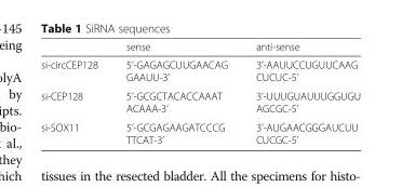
<table><thead><tr><td></td><td>sense</td><td>anti-sense</td></tr></thead><tbody><tr><td>si-circCEP128</td><td>5’-GAGAGCUUGAACAG GAAUU-3’</td><td>3’-AAUUCCUGUUCAAG CUCUC-5’</td></tr><tr><td>si-CEP128</td><td>5’-GCGCTACACCAAAT ACAAA-3’</td><td>3’-UUUGUAUUUGGUGU AGCGC-5’</td></tr><tr><td>si-SOX11</td><td>5’-GCGAGAAGATCCCG TTCAT-3’</td><td>3’-AUGAACGGGAUCUU CUCGC-5’</td></tr></tbody></table>